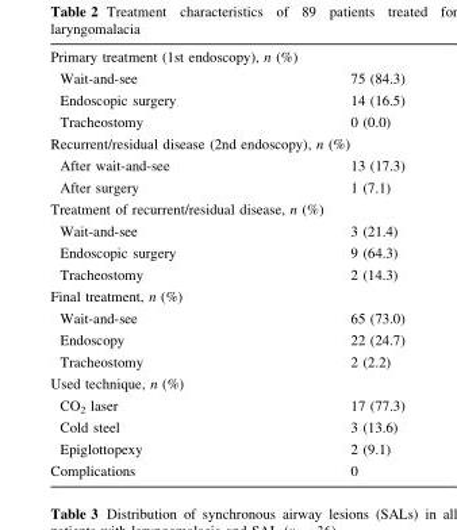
<table><tbody><tr><td colspan="2">Primary treatment (1st endoscopy), n (%)</td></tr><tr><td>Wait-and-see</td><td>75 (84.3)</td></tr><tr><td>Endoscopic surgery</td><td>14 (16.5)</td></tr><tr><td>Tracheostomy</td><td>0 (0.0)</td></tr><tr><td colspan="2">Recurrent/residual disease (2nd endoscopy), n (%)</td></tr><tr><td>After wait-and-see</td><td>13 (17.3)</td></tr><tr><td>After surgery</td><td>1 (7.1)</td></tr><tr><td colspan="2">Treatment of recurrent/residual disease, n (%)</td></tr><tr><td>Wait-and-see</td><td>3 (21.4)</td></tr><tr><td>Endoscopic surgery</td><td>9 (64.3)</td></tr><tr><td>Tracheostomy</td><td>2 (14.3)</td></tr><tr><td colspan="2">Final treatment, n (%)</td></tr><tr><td>Wait-and-see</td><td>65 (73.0)</td></tr><tr><td>Endoscopy</td><td>22 (24.7)</td></tr><tr><td>Tracheostomy</td><td>2 (2.2)</td></tr><tr><td colspan="2">Used technique, n (%)</td></tr><tr><td>CO<sub>2</sub> laser</td><td>17 (77.3)</td></tr><tr><td>Cold steel</td><td>3 (13.6)</td></tr><tr><td>Epiglottopexy</td><td>2 (9.1)</td></tr><tr><td>Complications</td><td>0</td></tr></tbody></table>